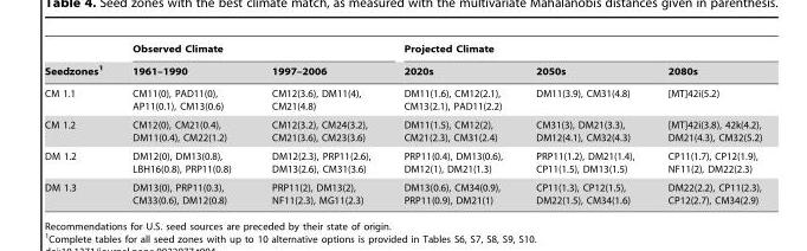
<table><thead><tr><td rowspan="2">Seedzones<sup>1</sup></td><td colspan="2">Observed Climate</td><td colspan="3">Projected Climate</td></tr><tr><td>1961–1990</td><td>1997–2006</td><td>2020s</td><td>2050s</td><td>2080s</td></tr></thead><tbody><tr><td>CM 1.1</td><td>CM11(0), PAD11(0), AP11(0.1), CM13(0.6)</td><td>CM12(3.6), DM11(4), CM21(4.8)</td><td>DM11(1.6), CM12(2.1), CM13(2.1), PAD11(2.2)</td><td>DM11(3.9), CM31(4.8)</td><td>[MT]42i(5.2)</td></tr><tr><td>CM 1.2</td><td>CM12(0), CM21(0.4), DM11(0.4), CM22(1.2)</td><td>CM12(3.2), CM24(3.2), CM21(3.6), CM23(3.6)</td><td>DM11(1.5), CM12(2), CM21(2.3), CM31(2.4)</td><td>CM31(3), DM21(3.3), DM12(4.1), CM32(4.3)</td><td>[MT]42i(3.8), 42k(4.2), DM21(4.3), CM32(5.2)</td></tr><tr><td>DM 1.2</td><td>DM12(0), DM13(0.8), LBH16(0.8), PRP11(0.8)</td><td>DM12(2.3), PRP11(2.6), DM13(2.6), CM31(3.6)</td><td>PRP11(0.4), DM13(0.6), DM12(1), DM21(1.3)</td><td>PRP11(1.2), DM21(1.4), CP11(1.5), DM13(1.5)</td><td>CP11(1.7), CP12(1.9), NF11(2), DM22(2.3)</td></tr><tr><td>DM 1.3</td><td>DM13(0), PRP11(0.3), CM33(0.6), DM12(0.8)</td><td>PRP11(2), DM13(2), NF11(2.3), MG11(2.3)</td><td>DM13(0.6), CM34(0.9), PRP11(0.9), DM21(1)</td><td>CP11(1.3), CP12(1.5), DM22(1.5), CM34(1.6)</td><td>DM22(2.2), CP11(2.3), CP12(2.7), CM34(2.9)</td></tr></tbody></table>